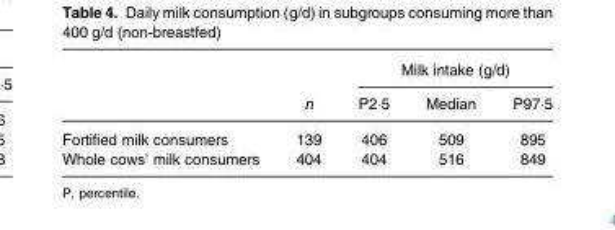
<table><thead><tr><td rowspan="2"></td><td rowspan="2">n</td><td colspan="3">Milk intake (g/d)</td></tr><tr><td>P2·5</td><td>Median</td><td>P97·5</td></tr></thead><tbody><tr><td>Fortified milk consumers</td><td>139</td><td>406</td><td>509</td><td>895</td></tr><tr><td>Whole cows’ milk consumers</td><td>404</td><td>404</td><td>516</td><td>849</td></tr></tbody></table>